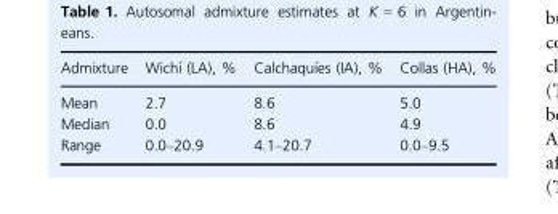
<table><thead><tr><td>Admixture</td><td>Wich�ı (LA), %</td><td>Calchaqu�ıes (IA), %</td><td>Collas (HA), %</td></tr></thead><tbody><tr><td>Mean</td><td>2.7</td><td>8.6</td><td>5.0</td></tr><tr><td>Median</td><td>0.0</td><td>8.6</td><td>4.9</td></tr><tr><td>Range</td><td>0.0–20.9</td><td>4.1–20.7</td><td>0.0–9.5</td></tr></tbody></table>